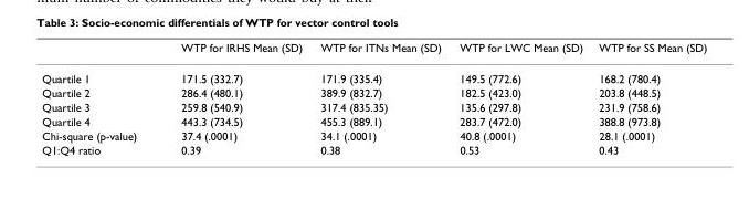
<table><thead><tr><td></td><td>WTP for IRHS Mean (SD)</td><td>WTP for ITNs Mean (SD)</td><td>WTP for LWC Mean (SD)</td><td>WTP for SS Mean (SD)</td></tr></thead><tbody><tr><td>Quartile 1</td><td>171.5 (332.7)</td><td>171.9 (335.4)</td><td>149.5 (772.6)</td><td>168.2 (780.4)</td></tr><tr><td>Quartile 2</td><td>286.4 (480.1)</td><td>389.9 (832.7)</td><td>182.5 (423.0)</td><td>203.8 (448.5)</td></tr><tr><td>Quartile 3</td><td>259.8 (540.9)</td><td>317.4 (835.35)</td><td>135.6 (297.8)</td><td>231.9 (758.6)</td></tr><tr><td>Quartile 4</td><td>443.3 (734.5)</td><td>455.3 (889.1)</td><td>283.7 (472.0)</td><td>388.8 (973.8)</td></tr><tr><td>Chi-square (p-value)</td><td>37.4 (.0001)</td><td>34.1 (.0001)</td><td>40.8 (.0001)</td><td>28.1 (.0001)</td></tr><tr><td>Q1:Q4 ratio</td><td>0.39</td><td>0.38</td><td>0.53</td><td>0.43</td></tr></tbody></table>